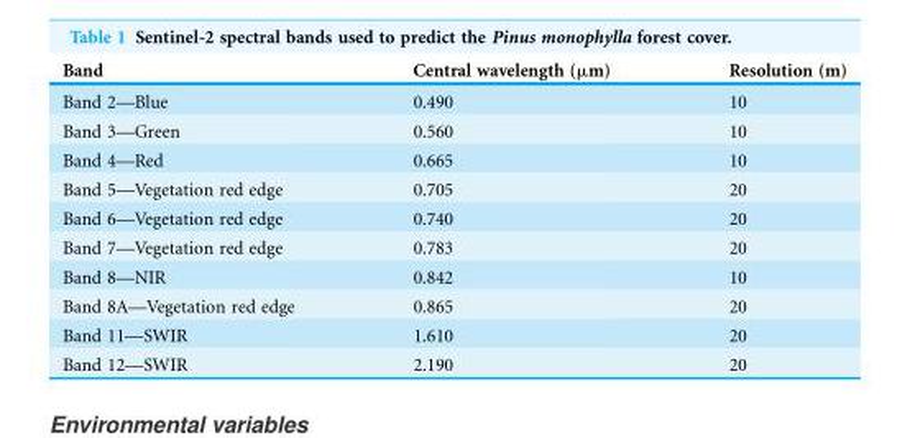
<table><thead><tr><td>Band</td><td>Central wavelength (μm)</td><td>Resolution (m)</td></tr></thead><tbody><tr><td>Band 2—Blue</td><td>0.490</td><td>10</td></tr><tr><td>Band 3—Green</td><td>0.560</td><td>10</td></tr><tr><td>Band 4—Red</td><td>0.665</td><td>10</td></tr><tr><td>Band 5—Vegetation red edge</td><td>0.705</td><td>20</td></tr><tr><td>Band 6—Vegetation red edge</td><td>0.740</td><td>20</td></tr><tr><td>Band 7—Vegetation red edge</td><td>0.783</td><td>20</td></tr><tr><td>Band 8—NIR</td><td>0.842</td><td>10</td></tr><tr><td>Band 8A—Vegetation red edge</td><td>0.865</td><td>20</td></tr><tr><td>Band 11—SWIR</td><td>1.610</td><td>20</td></tr><tr><td>Band 12—SWIR</td><td>2.190</td><td>20</td></tr></tbody></table>